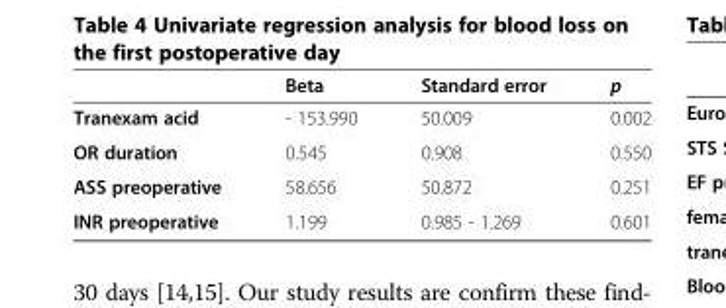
<table><thead><tr><td></td><td>Beta</td><td>Standard error</td><td>p</td></tr></thead><tbody><tr><td>Tranexam acid</td><td>- 153.990</td><td>50.009</td><td>0.002</td></tr><tr><td>OR duration</td><td>0.545</td><td>0.908</td><td>0.550</td></tr><tr><td>ASS preoperative</td><td>58.656</td><td>50.872</td><td>0.251</td></tr><tr><td>INR preoperative</td><td>1.199</td><td>0.985 - 1.269</td><td>0.601</td></tr></tbody></table>